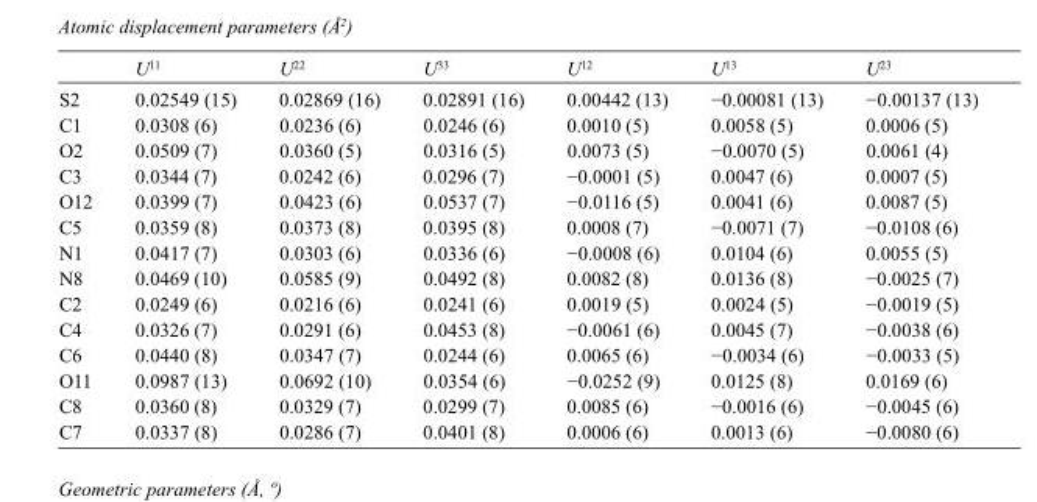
<table><thead><tr><td></td><td>U<sup>11</sup></td><td>U<sup>22</sup></td><td>U<sup>33</sup></td><td>U<sup>12</sup></td><td>U<sup>13</sup></td><td>U<sup>23</sup></td></tr></thead><tbody><tr><td>S2</td><td>0.02549 (15)</td><td>0.02869 (16)</td><td>0.02891 (16)</td><td>0.00442 (13)</td><td>−0.00081 (13)</td><td>−0.00137 (13)</td></tr><tr><td>C1</td><td>0.0308 (6)</td><td>0.0236 (6)</td><td>0.0246 (6)</td><td>0.0010 (5)</td><td>0.0058 (5)</td><td>0.0006 (5)</td></tr><tr><td>O2</td><td>0.0509 (7)</td><td>0.0360 (5)</td><td>0.0316 (5)</td><td>0.0073 (5)</td><td>−0.0070 (5)</td><td>0.0061 (4)</td></tr><tr><td>C3</td><td>0.0344 (7)</td><td>0.0242 (6)</td><td>0.0296 (7)</td><td>−0.0001 (5)</td><td>0.0047 (6)</td><td>0.0007 (5)</td></tr><tr><td>O12</td><td>0.0399 (7)</td><td>0.0423 (6)</td><td>0.0537 (7)</td><td>−0.0116 (5)</td><td>0.0041 (6)</td><td>0.0087 (5)</td></tr><tr><td>C5</td><td>0.0359 (8)</td><td>0.0373 (8)</td><td>0.0395 (8)</td><td>0.0008 (7)</td><td>−0.0071 (7)</td><td>−0.0108 (6)</td></tr><tr><td>N1</td><td>0.0417 (7)</td><td>0.0303 (6)</td><td>0.0336 (6)</td><td>−0.0008 (6)</td><td>0.0104 (6)</td><td>0.0055 (5)</td></tr><tr><td>N8</td><td>0.0469 (10)</td><td>0.0585 (9)</td><td>0.0492 (8)</td><td>0.0082 (8)</td><td>0.0136 (8)</td><td>−0.0025 (7)</td></tr><tr><td>C2</td><td>0.0249 (6)</td><td>0.0216 (6)</td><td>0.0241 (6)</td><td>0.0019 (5)</td><td>0.0024 (5)</td><td>−0.0019 (5)</td></tr><tr><td>C4</td><td>0.0326 (7)</td><td>0.0291 (6)</td><td>0.0453 (8)</td><td>−0.0061 (6)</td><td>0.0045 (7)</td><td>−0.0038 (6)</td></tr><tr><td>C6</td><td>0.0440 (8)</td><td>0.0347 (7)</td><td>0.0244 (6)</td><td>0.0065 (6)</td><td>−0.0034 (6)</td><td>−0.0033 (5)</td></tr><tr><td>O11</td><td>0.0987 (13)</td><td>0.0692 (10)</td><td>0.0354 (6)</td><td>−0.0252 (9)</td><td>0.0125 (8)</td><td>0.0169 (6)</td></tr><tr><td>C8</td><td>0.0360 (8)</td><td>0.0329 (7)</td><td>0.0299 (7)</td><td>0.0085 (6)</td><td>−0.0016 (6)</td><td>−0.0045 (6)</td></tr><tr><td>C7</td><td>0.0337 (8)</td><td>0.0286 (7)</td><td>0.0401 (8)</td><td>0.0006 (6)</td><td>0.0013 (6)</td><td>−0.0080 (6)</td></tr></tbody></table>